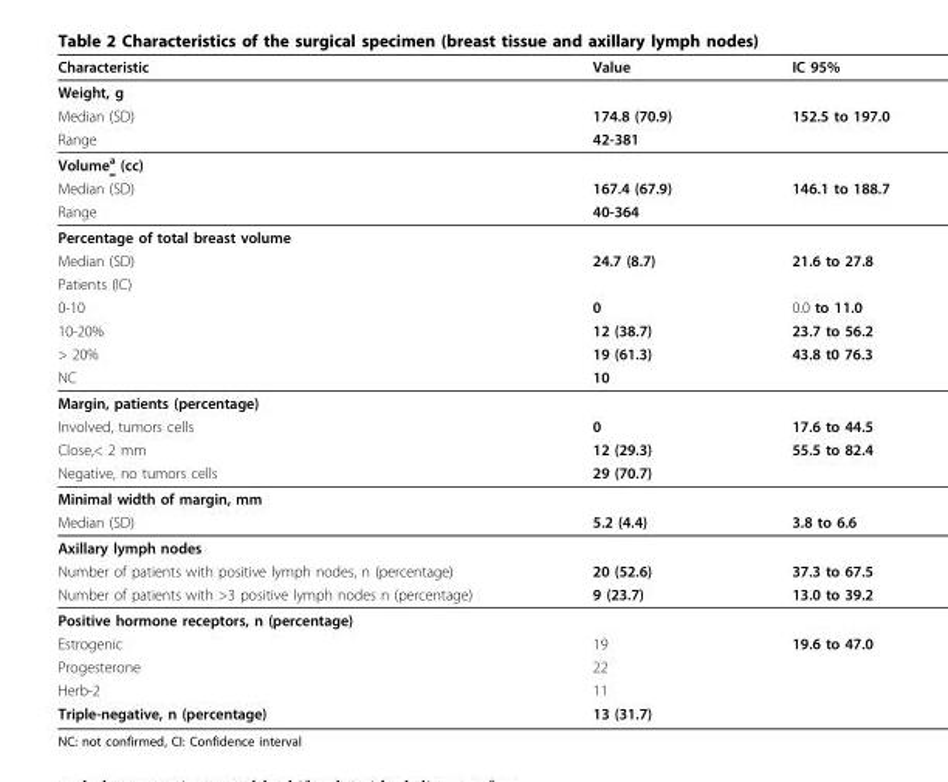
<table><thead><tr><td>Characteristic</td><td>Value</td><td>IC 95%</td></tr></thead><tbody><tr><td colspan="3">Weight, g</td></tr><tr><td>Median (SD)</td><td>174.8 (70.9)</td><td>152.5 to 197.0</td></tr><tr><td>Range</td><td>42-381</td><td></td></tr><tr><td colspan="3">Volume<sup>a</sup> (cc)</td></tr><tr><td>Median (SD)</td><td>167.4 (67.9)</td><td>146.1 to 188.7</td></tr><tr><td>Range</td><td>40-364</td><td></td></tr><tr><td colspan="3">Percentage of total breast volume</td></tr><tr><td>Median (SD)</td><td>24.7 (8.7)</td><td>21.6 to 27.8</td></tr><tr><td colspan="3">Patients (IC)</td></tr><tr><td>0-10</td><td>0</td><td>0.0 to 11.0</td></tr><tr><td>10-20%</td><td>12 (38.7)</td><td>23.7 to 56.2</td></tr><tr><td>&gt; 20%</td><td>19 (61.3)</td><td>43.8 t0 76.3</td></tr><tr><td>NC</td><td>10</td><td></td></tr><tr><td colspan="3">Margin, patients (percentage)</td></tr><tr><td>Involved, tumors cells</td><td>0</td><td>17.6 to 44.5</td></tr><tr><td>Close,&lt; 2 mm</td><td>12 (29.3)</td><td>55.5 to 82.4</td></tr><tr><td>Negative, no tumors cells</td><td>29 (70.7)</td><td></td></tr><tr><td colspan="3">Minimal width of margin, mm</td></tr><tr><td>Median (SD)</td><td>5.2 (4.4)</td><td>3.8 to 6.6</td></tr><tr><td colspan="3">Axillary lymph nodes</td></tr><tr><td>Number of patients with positive lymph nodes, n (percentage)</td><td>20 (52.6)</td><td>37.3 to 67.5</td></tr><tr><td>Number of patients with &gt;3 positive lymph nodes n (percentage)</td><td>9 (23.7)</td><td>13.0 to 39.2</td></tr><tr><td colspan="3">Positive hormone receptors, n (percentage)</td></tr><tr><td>Estrogenic</td><td>19</td><td>19.6 to 47.0</td></tr><tr><td>Progesterone</td><td>22</td><td></td></tr><tr><td>Herb-2</td><td>11</td><td></td></tr><tr><td>Triple-negative, n (percentage)</td><td>13 (31.7)</td><td></td></tr></tbody></table>